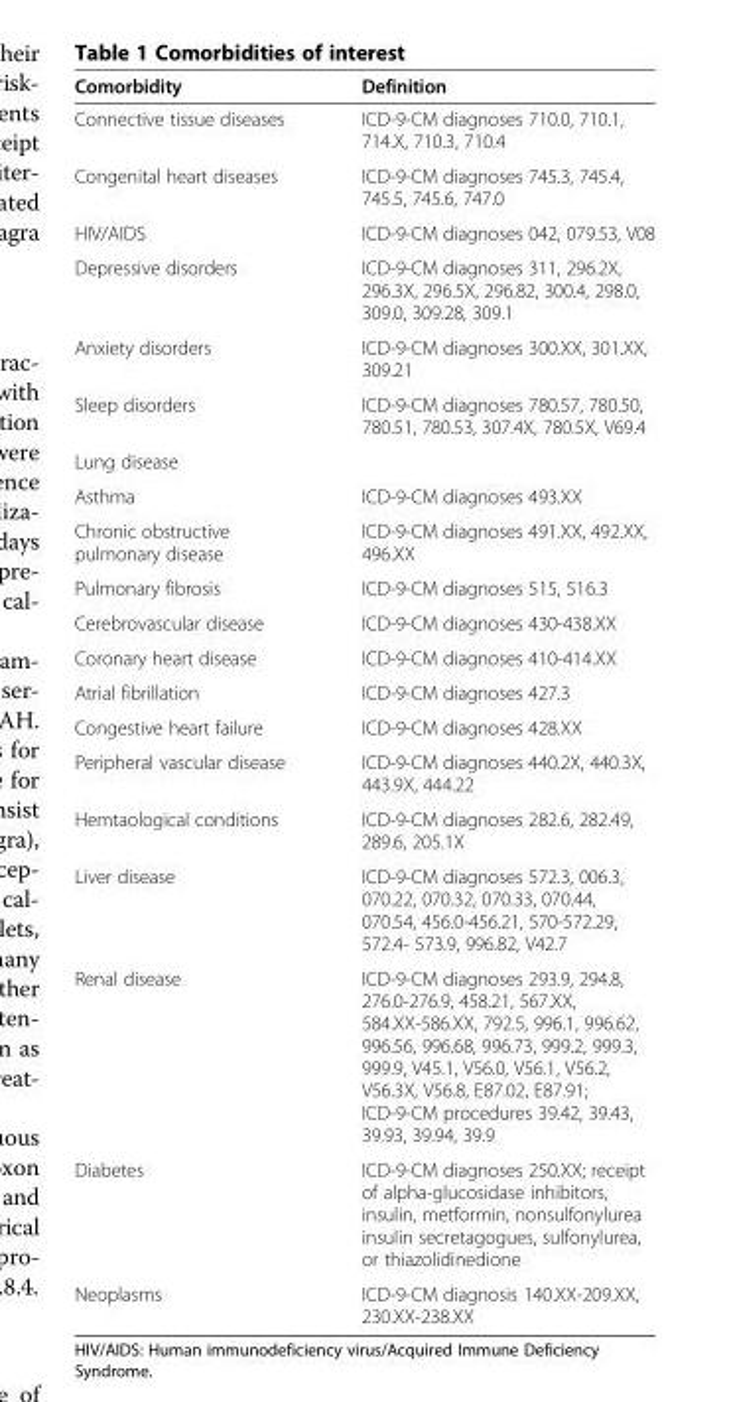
<table><thead><tr><td>Comorbidity</td><td>Definition</td></tr></thead><tbody><tr><td>Connective tissue diseases</td><td>ICD-9-CM diagnoses 710.0, 710.1, 714.X, 710.3, 710.4</td></tr><tr><td>Congenital heart diseases</td><td>ICD-9-CM diagnoses 745.3, 745.4, 745.5, 745.6, 747.0</td></tr><tr><td>HIV/AIDS</td><td>ICD-9-CM diagnoses 042, 079.53, V08</td></tr><tr><td>Depressive disorders</td><td>ICD-9-CM diagnoses 311, 296.2X, 296.3X, 296.5X, 296.82, 300.4, 298.0, 309.0, 309.28, 309.1</td></tr><tr><td>Anxiety disorders</td><td>ICD-9-CM diagnoses 300.XX, 301.XX, 309.21</td></tr><tr><td>Sleep disorders</td><td>ICD-9-CM diagnoses 780.57, 780.50, 780.51, 780.53, 307.4X, 780.5X, V69.4</td></tr><tr><td colspan="2">Lung disease</td></tr><tr><td>Asthma</td><td>ICD-9-CM diagnoses 493.XX</td></tr><tr><td>Chronic obstructive pulmonary disease</td><td>ICD-9-CM diagnoses 491.XX, 492.XX, 496.XX</td></tr><tr><td>Pulmonary fibrosis</td><td>ICD-9-CM diagnoses 515, 516.3</td></tr><tr><td>Cerebrovascular disease</td><td>ICD-9-CM diagnoses 430-438.XX</td></tr><tr><td>Coronary heart disease</td><td>ICD-9-CM diagnoses 410-414.XX</td></tr><tr><td>Atrial fibrillation</td><td>ICD-9-CM diagnoses 427.3</td></tr><tr><td>Congestive heart failure</td><td>ICD-9-CM diagnoses 428.XX</td></tr><tr><td>Peripheral vascular disease</td><td>ICD-9-CM diagnoses 440.2X, 440.3X, 443.9X, 444.22</td></tr><tr><td>Hemtaological conditions</td><td>ICD-9-CM diagnoses 282.6, 282.49, 289.6, 205.1X</td></tr><tr><td>Liver disease</td><td>ICD-9-CM diagnoses 572.3, 006.3, 070.22, 070.32, 070.33, 070.44, 070.54, 456.0-456.21, 570-572.29, 572.4- 573.9, 996.82, V42.7</td></tr><tr><td>Renal disease</td><td>ICD-9-CM diagnoses 293.9, 294.8, 276.0-276.9, 458.21, 567.XX, 584.XX-586.XX, 792.5, 996.1, 996.62, 996.56, 996.68, 996.73, 999.2, 999.3, 999.9, V45.1, V56.0, V56.1, V56.2, V56.3X, V56.8, E87.02, E87.91; ICD-9-CM procedures 39.42, 39.43, 39.93, 39.94, 39.9</td></tr><tr><td>Diabetes</td><td>ICD-9-CM diagnoses 250.XX; receipt of alpha-glucosidase inhibitors, insulin, metformin, nonsulfonylurea insulin secretagogues, sulfonylurea, or thiazolidinedione</td></tr><tr><td>Neoplasms</td><td>ICD-9-CM diagnosis 140.XX-209.XX, 230.XX-238.XX</td></tr></tbody></table>